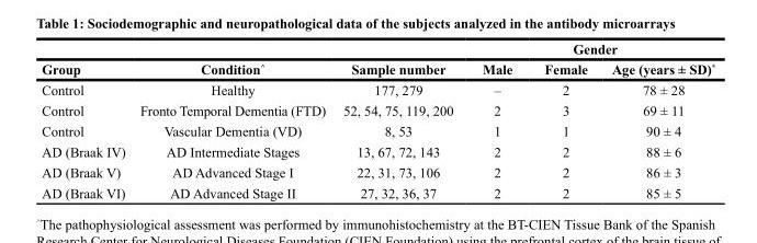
<table><thead><tr><td rowspan="2">Group</td><td rowspan="2">Condition<sup>^</sup></td><td rowspan="2">Sample number</td><td colspan="3">Gender</td></tr><tr><td>Male</td><td>Female</td><td>Age (years ± SD)*</td></tr></thead><tbody><tr><td>Control</td><td>Healthy</td><td>177, 279</td><td>–</td><td>2</td><td>78 ± 28</td></tr><tr><td>Control</td><td>Fronto Temporal Dementia (FTD)</td><td>52, 54, 75, 119, 200</td><td>2</td><td>3</td><td>69 ± 11</td></tr><tr><td>Control</td><td>Vascular Dementia (VD)</td><td>8, 53</td><td>1</td><td>1</td><td>90 ± 4</td></tr><tr><td>AD (Braak IV)</td><td>AD Intermediate Stages</td><td>13, 67, 72, 143</td><td>2</td><td>2</td><td>88 ± 6</td></tr><tr><td>AD (Braak V)</td><td>AD Advanced Stage I</td><td>22, 31, 73, 106</td><td>2</td><td>2</td><td>86 ± 3</td></tr><tr><td>AD (Braak VI)</td><td>AD Advanced Stage II</td><td>27, 32, 36, 37</td><td>2</td><td>2</td><td>85 ± 5</td></tr></tbody></table>